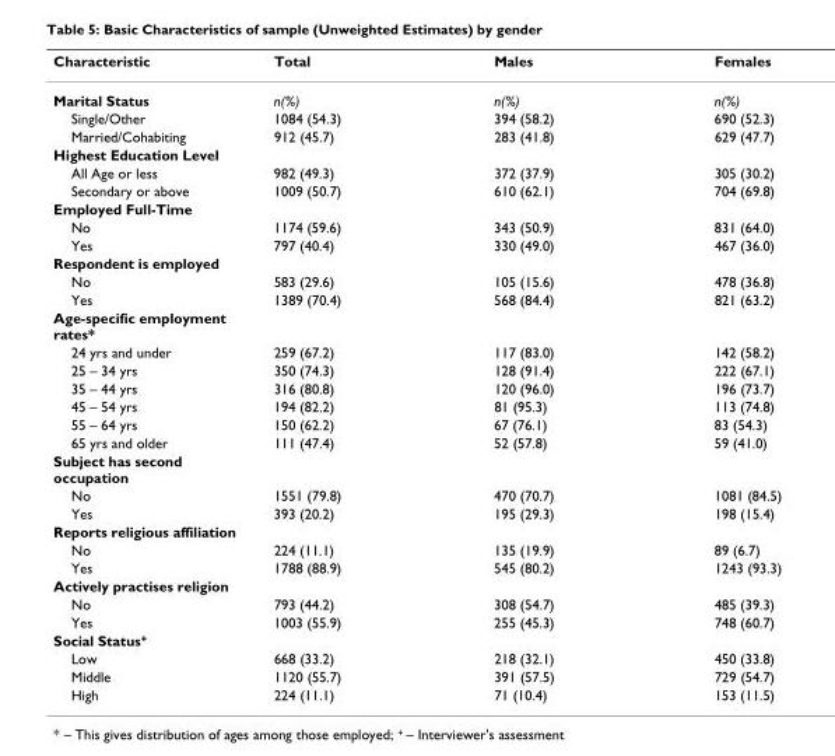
<table><thead><tr><td>Characteristic</td><td>Total</td><td>Males</td><td>Females</td></tr></thead><tbody><tr><td>Marital Status</td><td>n(%)</td><td>n(%)</td><td>n(%)</td></tr><tr><td>Single/Other</td><td>1084 (54.3)</td><td>394 (58.2)</td><td>690 (52.3)</td></tr><tr><td>Married/Cohabiting</td><td>912 (45.7)</td><td>283 (41.8)</td><td>629 (47.7)</td></tr><tr><td colspan="4">Highest Education Level</td></tr><tr><td>All Age or less</td><td>982 (49.3)</td><td>372 (37.9)</td><td>305 (30.2)</td></tr><tr><td>Secondary or above</td><td>1009 (50.7)</td><td>610 (62.1)</td><td>704 (69.8)</td></tr><tr><td colspan="4">Employed Full-Time</td></tr><tr><td>No</td><td>1174 (59.6)</td><td>343 (50.9)</td><td>831 (64.0)</td></tr><tr><td>Yes</td><td>797 (40.4)</td><td>330 (49.0)</td><td>467 (36.0)</td></tr><tr><td colspan="4">Respondent is employed</td></tr><tr><td>No</td><td>583 (29.6)</td><td>105 (15.6)</td><td>478 (36.8)</td></tr><tr><td>Yes</td><td>1389 (70.4)</td><td>568 (84.4)</td><td>821 (63.2)</td></tr><tr><td colspan="4">Age-specific employment rates*</td></tr><tr><td>24 yrs and under</td><td>259 (67.2)</td><td>117 (83.0)</td><td>142 (58.2)</td></tr><tr><td>25 – 34 yrs</td><td>350 (74.3)</td><td>128 (91.4)</td><td>222 (67.1)</td></tr><tr><td>35 – 44 yrs</td><td>316 (80.8)</td><td>120 (96.0)</td><td>196 (73.7)</td></tr><tr><td>45 – 54 yrs</td><td>194 (82.2)</td><td>81 (95.3)</td><td>113 (74.8)</td></tr><tr><td>55 – 64 yrs</td><td>150 (62.2)</td><td>67 (76.1)</td><td>83 (54.3)</td></tr><tr><td>65 yrs and older</td><td>111 (47.4)</td><td>52 (57.8)</td><td>59 (41.0)</td></tr><tr><td colspan="4">Subject has second occupation</td></tr><tr><td>No</td><td>1551 (79.8)</td><td>470 (70.7)</td><td>1081 (84.5)</td></tr><tr><td>Yes</td><td>393 (20.2)</td><td>195 (29.3)</td><td>198 (15.4)</td></tr><tr><td colspan="4">Reports religious affiliation</td></tr><tr><td>No</td><td>224 (11.1)</td><td>135 (19.9)</td><td>89 (6.7)</td></tr><tr><td>Yes</td><td>1788 (88.9)</td><td>545 (80.2)</td><td>1243 (93.3)</td></tr><tr><td colspan="4">Actively practises religion</td></tr><tr><td>No</td><td>793 (44.2)</td><td>308 (54.7)</td><td>485 (39.3)</td></tr><tr><td>Yes</td><td>1003 (55.9)</td><td>255 (45.3)</td><td>748 (60.7)</td></tr><tr><td colspan="4">Social Status<sup>+</sup></td></tr><tr><td>Low</td><td>668 (33.2)</td><td>218 (32.1)</td><td>450 (33.8)</td></tr><tr><td>Middle</td><td>1120 (55.7)</td><td>391 (57.5)</td><td>729 (54.7)</td></tr><tr><td>High</td><td>224 (11.1)</td><td>71 (10.4)</td><td>153 (11.5)</td></tr></tbody></table>